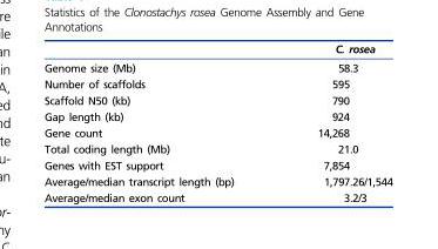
<table><thead><tr><td></td><td>C. rosea</td></tr></thead><tbody><tr><td>Genome size (Mb)</td><td>58.3</td></tr><tr><td>Number of scaffolds</td><td>595</td></tr><tr><td>Scaffold N50 (kb)</td><td>790</td></tr><tr><td>Gap length (kb)</td><td>924</td></tr><tr><td>Gene count</td><td>14,268</td></tr><tr><td>Total coding length (Mb)</td><td>21.0</td></tr><tr><td>Genes with EST support</td><td>7,854</td></tr><tr><td>Average/median transcript length (bp)</td><td>1,797.26/1,544</td></tr><tr><td>Average/median exon count</td><td>3.2/3</td></tr></tbody></table>